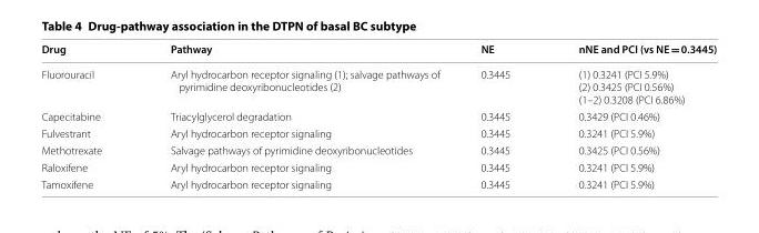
<table><thead><tr><td>Drug</td><td>Pathway</td><td>NE</td><td>nNE and PCI (vs NE = 0.3445)</td></tr></thead><tbody><tr><td>Fluorouracil</td><td>Aryl hydrocarbon receptor signaling (1); salvage pathways of pyrimidine deoxyribonucleotides (2)</td><td>0.3445</td><td>(1) 0.3241 (PCI 5.9%) (2) 0.3425 (PCI 0.56%) (1–2) 0.3208 (PCI 6.86%)</td></tr><tr><td>Capecitabine</td><td>Triacylglycerol degradation</td><td>0.3445</td><td>0.3429 (PCI 0.46%)</td></tr><tr><td>Fulvestrant</td><td>Aryl hydrocarbon receptor signaling</td><td>0.3445</td><td>0.3241 (PCI 5.9%)</td></tr><tr><td>Methotrexate</td><td>Salvage pathways of pyrimidine deoxyribonucleotides</td><td>0.3445</td><td>0.3425 (PCI 0.56%)</td></tr><tr><td>Raloxifene</td><td>Aryl hydrocarbon receptor signaling</td><td>0.3445</td><td>0.3241 (PCI 5.9%)</td></tr><tr><td>Tamoxifene</td><td>Aryl hydrocarbon receptor signaling</td><td>0.3445</td><td>0.3241 (PCI 5.9%)</td></tr></tbody></table>